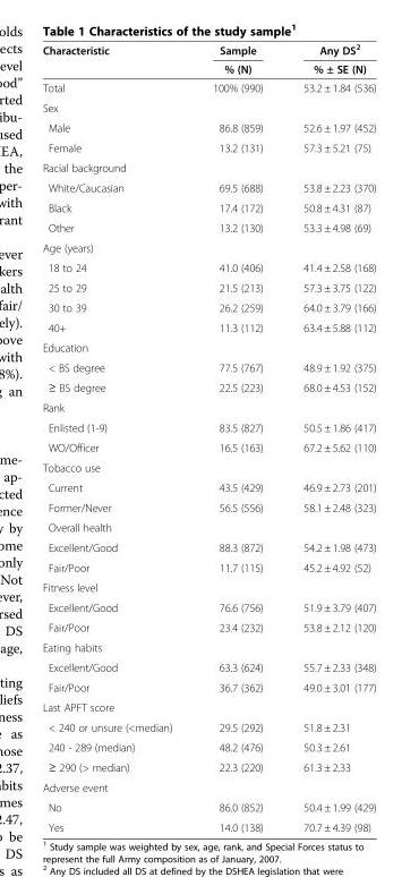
<table><thead><tr><td rowspan="2">Characteristic</td><td rowspan="2">Sample % (N)</td><td rowspan="2">Any DS<sup>2</sup> % ± SE (N)</td></tr><tr></tr></thead><tbody><tr><td>Total</td><td>100% (990)</td><td>53.2 ± 1.84 (536)</td></tr><tr><td colspan="3">Sex</td></tr><tr><td>Male</td><td>86.8 (859)</td><td>52.6 ± 1.97 (452)</td></tr><tr><td>Female</td><td>13.2 (131)</td><td>57.3 ± 5.21 (75)</td></tr><tr><td colspan="3">Racial background</td></tr><tr><td>White/Caucasian</td><td>69.5 (688)</td><td>53.8 ± 2.23 (370)</td></tr><tr><td>Black</td><td>17.4 (172)</td><td>50.8 ± 4.31 (87)</td></tr><tr><td>Other</td><td>13.2 (130)</td><td>53.3 ± 4.98 (69)</td></tr><tr><td colspan="3">Age (years)</td></tr><tr><td>18 to 24</td><td>41.0 (406)</td><td>41.4 ± 2.58 (168)</td></tr><tr><td>25 to 29</td><td>21.5 (213)</td><td>57.3 ± 3.75 (122)</td></tr><tr><td>30 to 39</td><td>26.2 (259)</td><td>64.0 ± 3.79 (166)</td></tr><tr><td>40+</td><td>11.3 (112)</td><td>63.4 ± 5.88 (112)</td></tr><tr><td colspan="3">Education</td></tr><tr><td>&lt; BS degree</td><td>77.5 (767)</td><td>48.9 ± 1.92 (375)</td></tr><tr><td>≥ BS degree</td><td>22.5 (223)</td><td>68.0 ± 4.53 (152)</td></tr><tr><td colspan="3">Rank</td></tr><tr><td>Enlisted (1-9)</td><td>83.5 (827)</td><td>50.5 ± 1.86 (417)</td></tr><tr><td>WO/Officer</td><td>16.5 (163)</td><td>67.2 ± 5.62 (110)</td></tr><tr><td colspan="3">Tobacco use</td></tr><tr><td>Current</td><td>43.5 (429)</td><td>46.9 ± 2.73 (201)</td></tr><tr><td>Former/Never</td><td>56.5 (556)</td><td>58.1 ± 2.48 (323)</td></tr><tr><td colspan="3">Overall health</td></tr><tr><td>Excellent/Good</td><td>88.3 (872)</td><td>54.2 ± 1.98 (473)</td></tr><tr><td>Fair/Poor</td><td>11.7 (115)</td><td>45.2 ± 4.92 (52)</td></tr><tr><td colspan="3">Fitness level</td></tr><tr><td>Excellent/Good</td><td>76.6 (756)</td><td>51.9 ± 3.79 (407)</td></tr><tr><td>Fair/Poor</td><td>23.4 (232)</td><td>53.8 ± 2.12 (120)</td></tr><tr><td colspan="3">Eating habits</td></tr><tr><td>Excellent/Good</td><td>63.3 (624)</td><td>55.7 ± 2.33 (348)</td></tr><tr><td>Fair/Poor</td><td>36.7 (362)</td><td>49.0 ± 3.01 (177)</td></tr><tr><td colspan="3">Last APFT score</td></tr><tr><td>&lt; 240 or unsure (&lt;median)</td><td>29.5 (292)</td><td>51.8 ± 2.31</td></tr><tr><td>240 - 289 (median)</td><td>48.2 (476)</td><td>50.3 ± 2.61</td></tr><tr><td>≥ 290 (&gt; median)</td><td>22.3 (220)</td><td>61.3 ± 2.33</td></tr><tr><td colspan="3">Adverse event</td></tr><tr><td>No</td><td>86.0 (852)</td><td>50.4 ± 1.99 (429)</td></tr><tr><td>Yes</td><td>14.0 (138)</td><td>70.7 ± 4.39 (98)</td></tr></tbody></table>